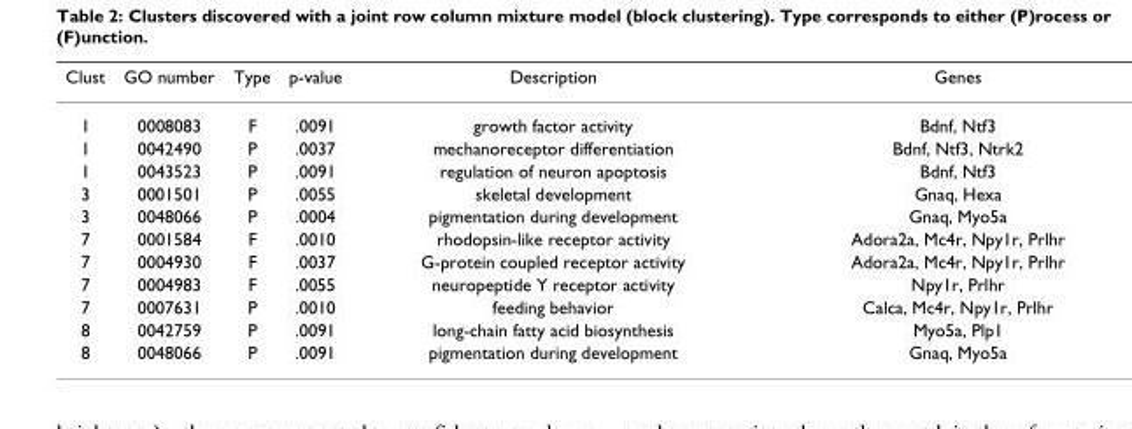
<table><thead><tr><td>Clust</td><td>GO number</td><td>Type</td><td>p-value</td><td>Description</td><td>Genes</td></tr></thead><tbody><tr><td>1</td><td>0008083</td><td>F</td><td>.0091</td><td>growth factor activity</td><td>Bdnf, Ntf3</td></tr><tr><td>1</td><td>0042490</td><td>P</td><td>.0037</td><td>mechanoreceptor differentiation</td><td>Bdnf, Ntf3, Ntrk2</td></tr><tr><td>1</td><td>0043523</td><td>P</td><td>.0091</td><td>regulation of neuron apoptosis</td><td>Bdnf, Ntf3</td></tr><tr><td>3</td><td>0001501</td><td>P</td><td>.0055</td><td>skeletal development</td><td>Gnaq, Hexa</td></tr><tr><td>3</td><td>0048066</td><td>P</td><td>.0004</td><td>pigmentation during development</td><td>Gnaq, Myo5a</td></tr><tr><td>7</td><td>0001584</td><td>F</td><td>.0010</td><td>rhodopsin-like receptor activity</td><td>Adora2a, Mc4r, Npy1r, Prlhr</td></tr><tr><td>7</td><td>0004930</td><td>F</td><td>.0037</td><td>G-protein coupled receptor activity</td><td>Adora2a, Mc4r, Npy1r, Prlhr</td></tr><tr><td>7</td><td>0004983</td><td>F</td><td>.0055</td><td>neuropeptide Y receptor activity</td><td>Npy1r, Prlhr</td></tr><tr><td>7</td><td>0007631</td><td>P</td><td>.0010</td><td>feeding behavior</td><td>Calca, Mc4r, Npy1r, Prlhr</td></tr><tr><td>8</td><td>0042759</td><td>P</td><td>.0091</td><td>long-chain fatty acid biosynthesis</td><td>Myo5a, Plp1</td></tr><tr><td>8</td><td>0048066</td><td>P</td><td>.0091</td><td>pigmentation during development</td><td>Gnaq, Myo5a</td></tr></tbody></table>